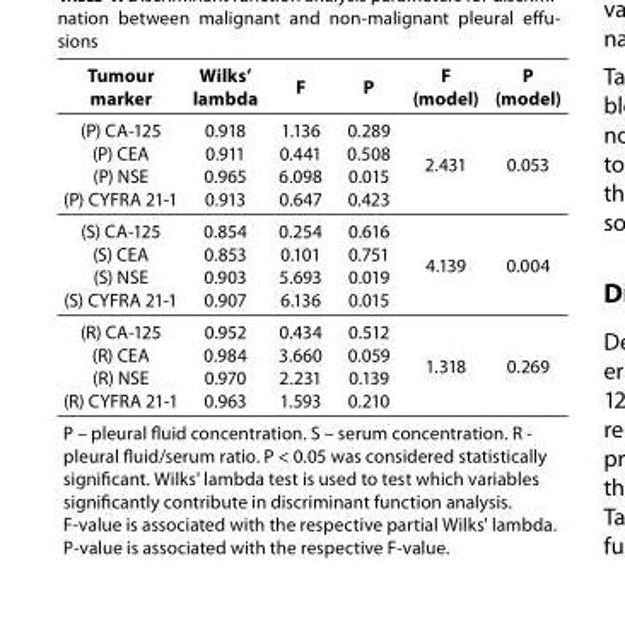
<table><thead><tr><td>Tumour marker</td><td>Wilks’ lambda</td><td>F</td><td>P</td><td>F (model)</td><td>P (model)</td></tr></thead><tbody><tr><td>(P) CA-125 (P) CEA (P) NSE (P) CYFRA 21-1</td><td>0.918 0.911 0.965 0.913</td><td>1.136 0.441 6.098 0.647</td><td>0.289 0.508 0.015 0.423</td><td>2.431</td><td>0.053</td></tr><tr><td>(S) CA-125 (S) CEA (S) NSE (S) CYFRA 21-1</td><td>0.854 0.853 0.903 0.907</td><td>0.254 0.101 5.693 6.136</td><td>0.616 0.751 0.019 0.015</td><td>4.139</td><td>0.004</td></tr><tr><td>(R) CA-125 (R) CEA (R) NSE (R) CYFRA 21-1</td><td>0.952 0.984 0.970 0.963</td><td>0.434 3.660 2.231 1.593</td><td>0.512 0.059 0.139 0.210</td><td>1.318</td><td>0.269</td></tr><tr><td colspan="6">P – pleural fluid concentration. S – serum concentration. R - pleural fluid/serum ratio. P &lt; 0.05 was considered statistically significant. Wilks&#x27; lambda test is used to test which variables significantly contribute in discriminant function analysis. F-value is associated with the respective partial Wilks&#x27; lambda. P-value is associated with the respective F-value.</td></tr></tbody></table>